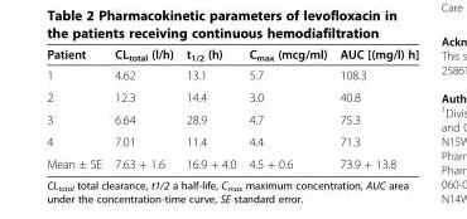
<table><thead><tr><td>Patient</td><td>CL<sub>total</sub> (l/h)</td><td>t<sub>1/2</sub> (h)</td><td>C<sub>max</sub> (mcg/ml)</td><td>AUC [(mg/l) h]</td></tr></thead><tbody><tr><td>1</td><td>4.62</td><td>13.1</td><td>5.7</td><td>108.3</td></tr><tr><td>2</td><td>12.3</td><td>14.4</td><td>3.0</td><td>40.8</td></tr><tr><td>3</td><td>6.64</td><td>28.9</td><td>4.7</td><td>75.3</td></tr><tr><td>4</td><td>7.01</td><td>11.4</td><td>4.4</td><td>71.3</td></tr><tr><td>Mean ± SE</td><td>7.63 + 1.6</td><td>16.9 + 4.0</td><td>4.5 + 0.6</td><td>73.9 + 13.8</td></tr></tbody></table>